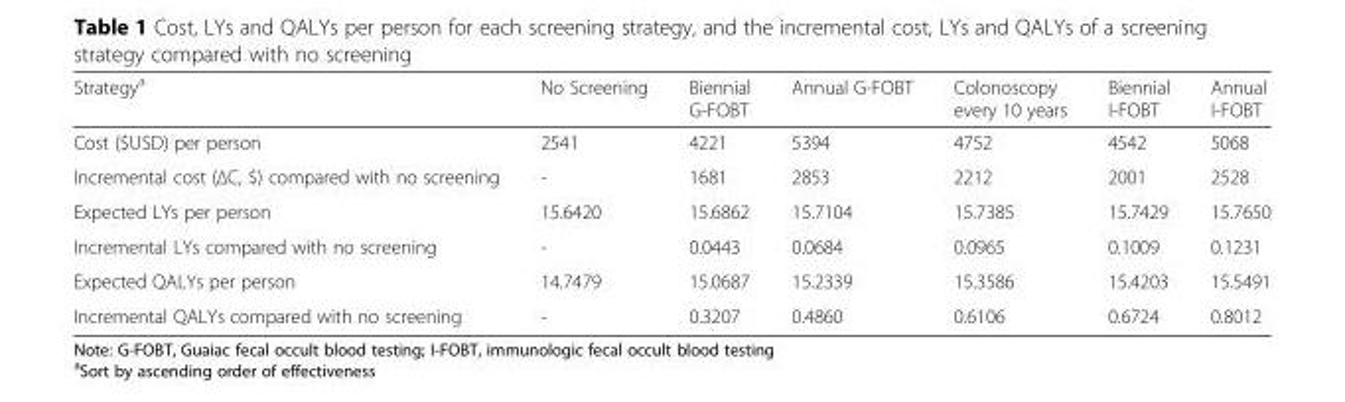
<table><thead><tr><td>Strategy<sup>a</sup></td><td>No Screening</td><td>Biennial G-FOBT</td><td>Annual G-FOBT</td><td>Colonoscopy every 10 years</td><td>Biennial I-FOBT</td><td>Annual I-FOBT</td></tr></thead><tbody><tr><td>Cost ($USD) per person</td><td>2541</td><td>4221</td><td>5394</td><td>4752</td><td>4542</td><td>5068</td></tr><tr><td>Incremental cost (ΔC, $) compared with no screening</td><td>-</td><td>1681</td><td>2853</td><td>2212</td><td>2001</td><td>2528</td></tr><tr><td>Expected LYs per person</td><td>15.6420</td><td>15.6862</td><td>15.7104</td><td>15.7385</td><td>15.7429</td><td>15.7650</td></tr><tr><td>Incremental LYs compared with no screening</td><td>-</td><td>0.0443</td><td>0.0684</td><td>0.0965</td><td>0.1009</td><td>0.1231</td></tr><tr><td>Expected QALYs per person</td><td>14.7479</td><td>15.0687</td><td>15.2339</td><td>15.3586</td><td>15.4203</td><td>15.5491</td></tr><tr><td>Incremental QALYs compared with no screening</td><td>-</td><td>0.3207</td><td>0.4860</td><td>0.6106</td><td>0.6724</td><td>0.8012</td></tr></tbody></table>